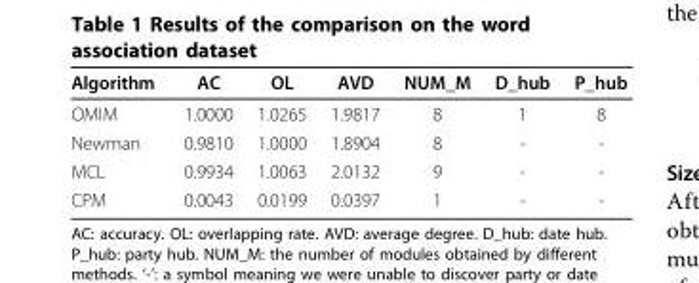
<table><thead><tr><td>Algorithm</td><td>AC</td><td>OL</td><td>AVD</td><td>NUM_M</td><td>D_hub</td><td>P_hub</td></tr></thead><tbody><tr><td>OMIM</td><td>1.0000</td><td>1.0265</td><td>1.9817</td><td>8</td><td>1</td><td>8</td></tr><tr><td>Newman</td><td>0.9810</td><td>1.0000</td><td>1.8904</td><td>8</td><td>-</td><td>-</td></tr><tr><td>MCL</td><td>0.9934</td><td>1.0063</td><td>2.0132</td><td>9</td><td>-</td><td>-</td></tr><tr><td>CPM</td><td>0.0043</td><td>0.0199</td><td>0.0397</td><td>1</td><td>-</td><td>-</td></tr></tbody></table>